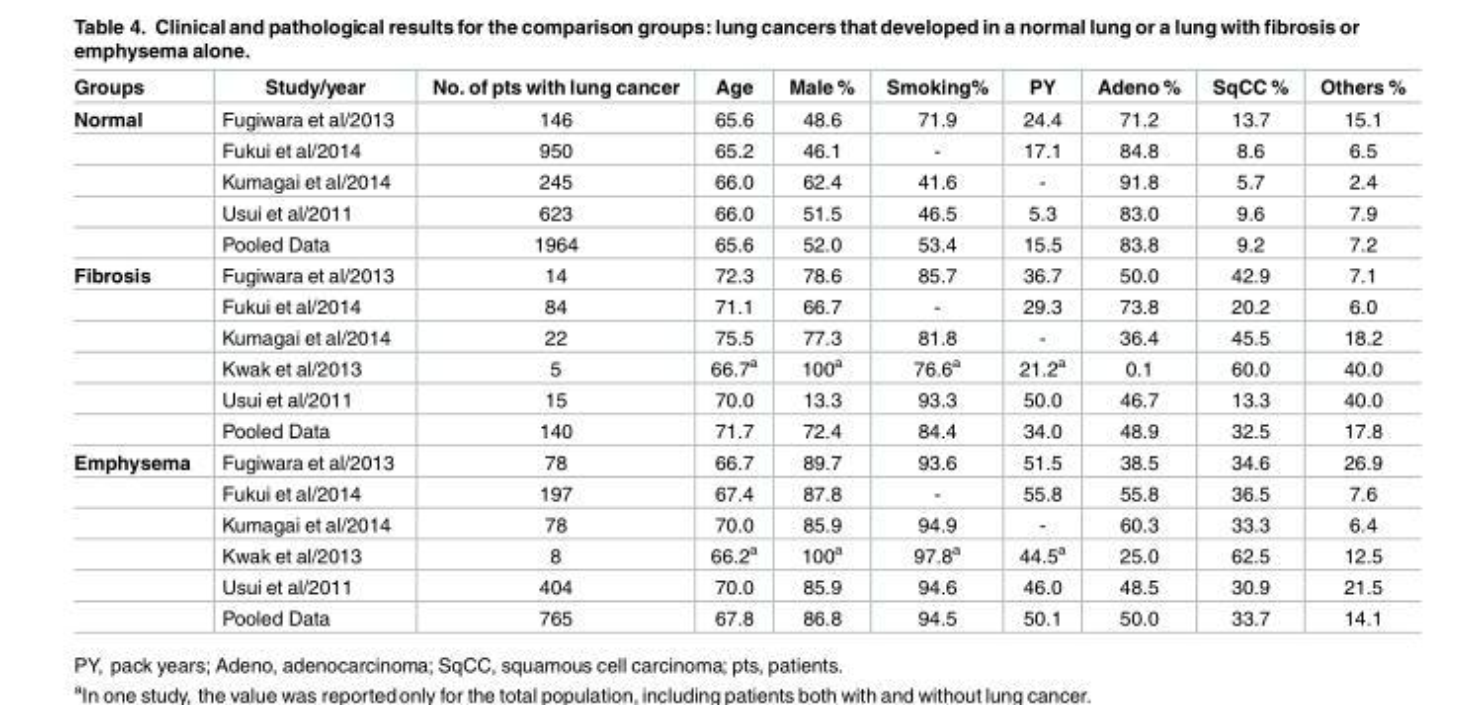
<table><thead><tr><td>Groups</td><td>Study/year</td><td>No. of pts with lung cancer</td><td>Age</td><td>Male %</td><td>Smoking%</td><td>PY</td><td>Adeno %</td><td>SqCC %</td><td>Others %</td></tr></thead><tbody><tr><td rowspan="5">Normal</td><td>Fugiwara et al/2013</td><td>146</td><td>65.6</td><td>48.6</td><td>71.9</td><td>24.4</td><td>71.2</td><td>13.7</td><td>15.1</td></tr><tr><td>Fukui et al/2014</td><td>950</td><td>65.2</td><td>46.1</td><td>-</td><td>17.1</td><td>84.8</td><td>8.6</td><td>6.5</td></tr><tr><td>Kumagai et al/2014</td><td>245</td><td>66.0</td><td>62.4</td><td>41.6</td><td>-</td><td>91.8</td><td>5.7</td><td>2.4</td></tr><tr><td>Usui et al/2011</td><td>623</td><td>66.0</td><td>51.5</td><td>46.5</td><td>5.3</td><td>83.0</td><td>9.6</td><td>7.9</td></tr><tr><td>Pooled Data</td><td>1964</td><td>65.6</td><td>52.0</td><td>53.4</td><td>15.5</td><td>83.8</td><td>9.2</td><td>7.2</td></tr><tr><td rowspan="6">Fibrosis</td><td>Fugiwara et al/2013</td><td>14</td><td>72.3</td><td>78.6</td><td>85.7</td><td>36.7</td><td>50.0</td><td>42.9</td><td>7.1</td></tr><tr><td>Fukui et al/2014</td><td>84</td><td>71.1</td><td>66.7</td><td>-</td><td>29.3</td><td>73.8</td><td>20.2</td><td>6.0</td></tr><tr><td>Kumagai et al/2014</td><td>22</td><td>75.5</td><td>77.3</td><td>81.8</td><td>-</td><td>36.4</td><td>45.5</td><td>18.2</td></tr><tr><td>Kwak et al/2013</td><td>5</td><td>66.7<sup>a</sup></td><td>100<sup>a</sup></td><td>76.6<sup>a</sup></td><td>21.2<sup>a</sup></td><td>0.1</td><td>60.0</td><td>40.0</td></tr><tr><td>Usui et al/2011</td><td>15</td><td>70.0</td><td>13.3</td><td>93.3</td><td>50.0</td><td>46.7</td><td>13.3</td><td>40.0</td></tr><tr><td>Pooled Data</td><td>140</td><td>71.7</td><td>72.4</td><td>84.4</td><td>34.0</td><td>48.9</td><td>32.5</td><td>17.8</td></tr><tr><td rowspan="6">Emphysema</td><td>Fugiwara et al/2013</td><td>78</td><td>66.7</td><td>89.7</td><td>93.6</td><td>51.5</td><td>38.5</td><td>34.6</td><td>26.9</td></tr><tr><td>Fukui et al/2014</td><td>197</td><td>67.4</td><td>87.8</td><td>-</td><td>55.8</td><td>55.8</td><td>36.5</td><td>7.6</td></tr><tr><td>Kumagai et al/2014</td><td>78</td><td>70.0</td><td>85.9</td><td>94.9</td><td>-</td><td>60.3</td><td>33.3</td><td>6.4</td></tr><tr><td>Kwak et al/2013</td><td>8</td><td>66.2<sup>a</sup></td><td>100<sup>a</sup></td><td>97.8<sup>a</sup></td><td>44.5<sup>a</sup></td><td>25.0</td><td>62.5</td><td>12.5</td></tr><tr><td>Usui et al/2011</td><td>404</td><td>70.0</td><td>85.9</td><td>94.6</td><td>46.0</td><td>48.5</td><td>30.9</td><td>21.5</td></tr><tr><td>Pooled Data</td><td>765</td><td>67.8</td><td>86.8</td><td>94.5</td><td>50.1</td><td>50.0</td><td>33.7</td><td>14.1</td></tr></tbody></table>